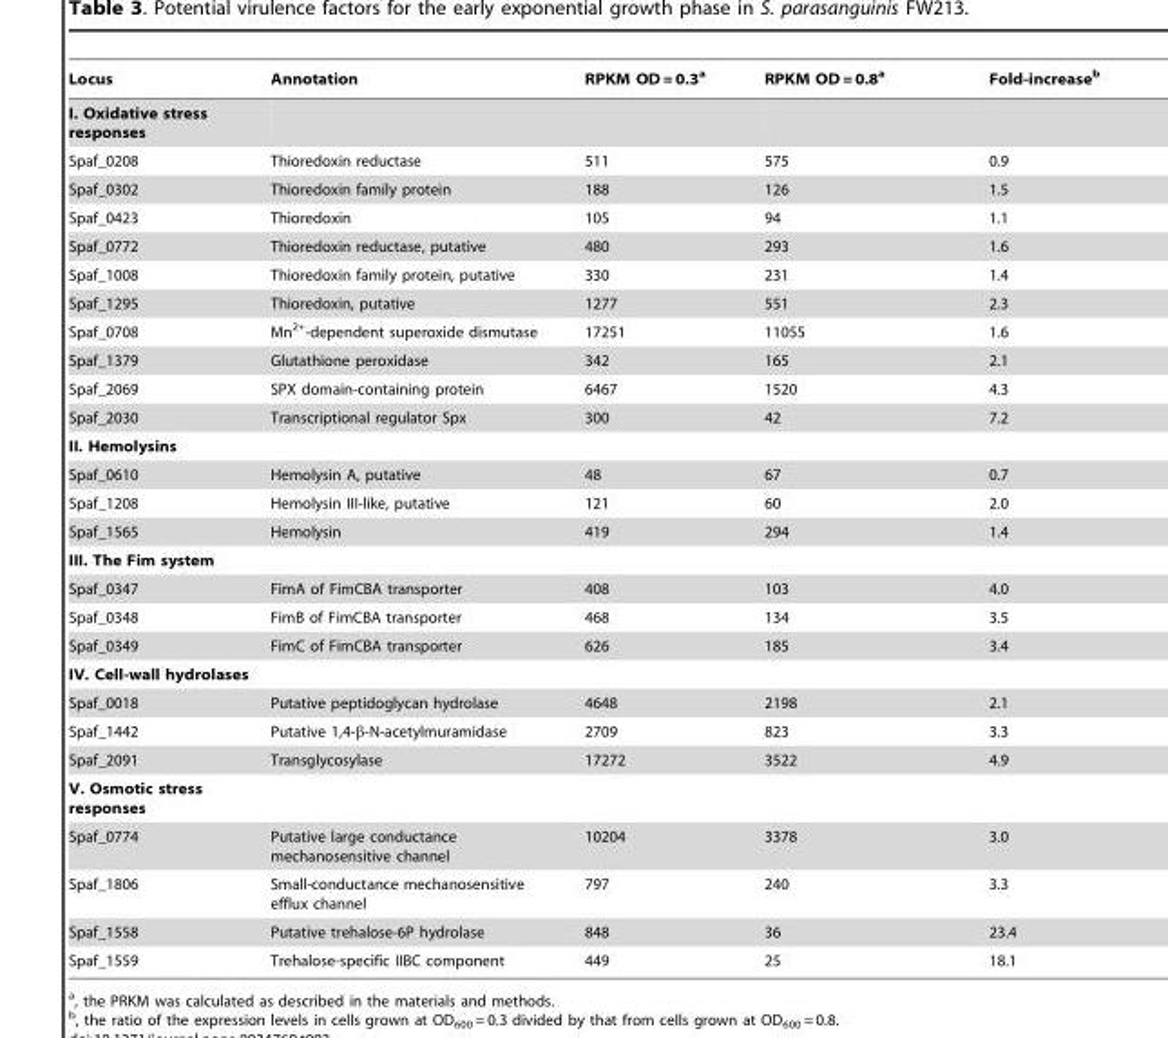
<table><thead><tr><td>Locus</td><td>Annotation</td><td>RPKM OD = 0.3<sup>a</sup></td><td>RPKM OD = 0.8<sup>a</sup></td><td>Fold-increase<sup>b</sup></td></tr></thead><tbody><tr><td colspan="5">I. Oxidative stress responses</td></tr><tr><td>Spaf_0208</td><td>Thioredoxin reductase</td><td>511</td><td>575</td><td>0.9</td></tr><tr><td>Spaf_0302</td><td>Thioredoxin family protein</td><td>188</td><td>126</td><td>1.5</td></tr><tr><td>Spaf_0423</td><td>Thioredoxin</td><td>105</td><td>94</td><td>1.1</td></tr><tr><td>Spaf_0772</td><td>Thioredoxin reductase, putative</td><td>480</td><td>293</td><td>1.6</td></tr><tr><td>Spaf_1008</td><td>Thioredoxin family protein, putative</td><td>330</td><td>231</td><td>1.4</td></tr><tr><td>Spaf_1295</td><td>Thioredoxin, putative</td><td>1277</td><td>551</td><td>2.3</td></tr><tr><td>Spaf_0708</td><td>Mn<sup>2+</sup>-dependent superoxide dismutase</td><td>17251</td><td>11055</td><td>1.6</td></tr><tr><td>Spaf_1379</td><td>Glutathione peroxidase</td><td>342</td><td>165</td><td>2.1</td></tr><tr><td>Spaf_2069</td><td>SPX domain-containing protein</td><td>6467</td><td>1520</td><td>4.3</td></tr><tr><td>Spaf_2030</td><td>Transcriptional regulator Spx</td><td>300</td><td>42</td><td>7.2</td></tr><tr><td colspan="5">II. Hemolysins</td></tr><tr><td>Spaf_0610</td><td>Hemolysin A, putative</td><td>48</td><td>67</td><td>0.7</td></tr><tr><td>Spaf_1208</td><td>Hemolysin III-like, putative</td><td>121</td><td>60</td><td>2.0</td></tr><tr><td>Spaf_1565</td><td>Hemolysin</td><td>419</td><td>294</td><td>1.4</td></tr><tr><td colspan="5">III. The Fim system</td></tr><tr><td>Spaf_0347</td><td>FimA of FimCBA transporter</td><td>408</td><td>103</td><td>4.0</td></tr><tr><td>Spaf_0348</td><td>FimB of FimCBA transporter</td><td>468</td><td>134</td><td>3.5</td></tr><tr><td>Spaf_0349</td><td>FimC of FimCBA transporter</td><td>626</td><td>185</td><td>3.4</td></tr><tr><td colspan="5">IV. Cell-wall hydrolases</td></tr><tr><td>Spaf_0018</td><td>Putative peptidoglycan hydrolase</td><td>4648</td><td>2198</td><td>2.1</td></tr><tr><td>Spaf_1442</td><td>Putative 1,4-β-N-acetylmuramidase</td><td>2709</td><td>823</td><td>3.3</td></tr><tr><td>Spaf_2091</td><td>Transglycosylase</td><td>17272</td><td>3522</td><td>4.9</td></tr><tr><td colspan="5">V. Osmotic stress responses</td></tr><tr><td>Spaf_0774</td><td>Putative large conductance mechanosensitive channel</td><td>10204</td><td>3378</td><td>3.0</td></tr><tr><td>Spaf_1806</td><td>Small-conductance mechanosensitive efflux channel</td><td>797</td><td>240</td><td>3.3</td></tr><tr><td>Spaf_1558</td><td>Putative trehalose-6P hydrolase</td><td>848</td><td>36</td><td>23.4</td></tr><tr><td>Spaf_1559</td><td>Trehalose-specific IIBC component</td><td>449</td><td>25</td><td>18.1</td></tr></tbody></table>